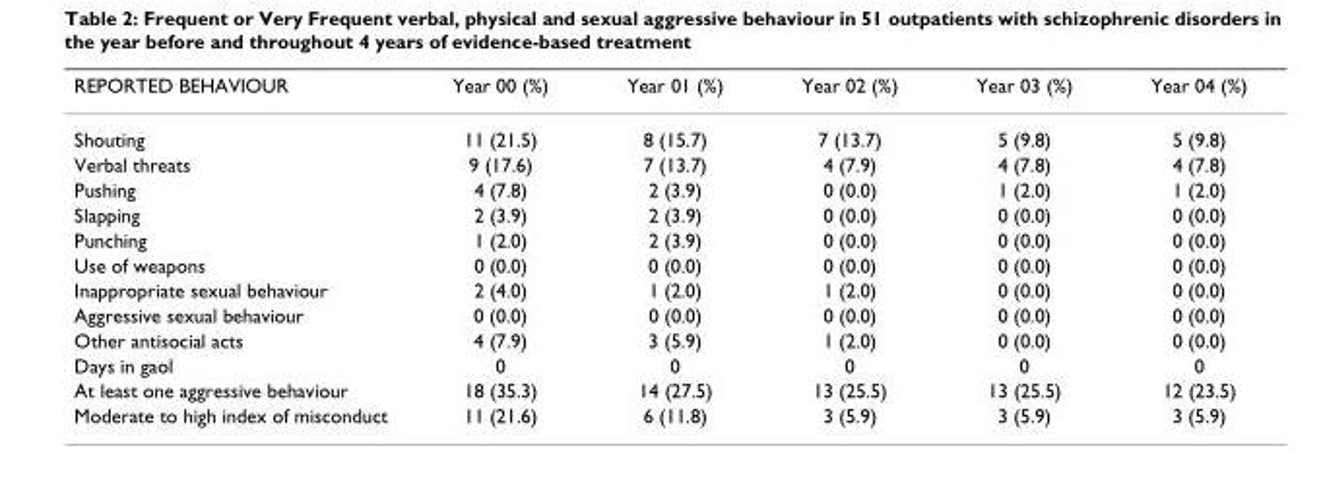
<table><thead><tr><td>REPORTED BEHAVIOUR</td><td>Year 00 (%)</td><td>Year 01 (%)</td><td>Year 02 (%)</td><td>Year 03 (%)</td><td>Year 04 (%)</td></tr></thead><tbody><tr><td>Shouting</td><td>11 (21.5)</td><td>8 (15.7)</td><td>7 (13.7)</td><td>5 (9.8)</td><td>5 (9.8)</td></tr><tr><td>Verbal threats</td><td>9 (17.6)</td><td>7 (13.7)</td><td>4 (7.9)</td><td>4 (7.8)</td><td>4 (7.8)</td></tr><tr><td>Pushing</td><td>4 (7.8)</td><td>2 (3.9)</td><td>0 (0.0)</td><td>1 (2.0)</td><td>1 (2.0)</td></tr><tr><td>Slapping</td><td>2 (3.9)</td><td>2 (3.9)</td><td>0 (0.0)</td><td>0 (0.0)</td><td>0 (0.0)</td></tr><tr><td>Punching</td><td>1 (2.0)</td><td>2 (3.9)</td><td>0 (0.0)</td><td>0 (0.0)</td><td>0 (0.0)</td></tr><tr><td>Use of weapons</td><td>0 (0.0)</td><td>0 (0.0)</td><td>0 (0.0)</td><td>0 (0.0)</td><td>0 (0.0)</td></tr><tr><td>Inappropriate sexual behaviour</td><td>2 (4.0)</td><td>1 (2.0)</td><td>1 (2.0)</td><td>0 (0.0)</td><td>0 (0.0)</td></tr><tr><td>Aggressive sexual behaviour</td><td>0 (0.0)</td><td>0 (0.0)</td><td>0 (0.0)</td><td>0 (0.0)</td><td>0 (0.0)</td></tr><tr><td>Other antisocial acts</td><td>4 (7.9)</td><td>3 (5.9)</td><td>1 (2.0)</td><td>0 (0.0)</td><td>0 (0.0)</td></tr><tr><td>Days in gaol</td><td>0</td><td>0</td><td>0</td><td>0</td><td>0</td></tr><tr><td>At least one aggressive behaviour</td><td>18 (35.3)</td><td>14 (27.5)</td><td>13 (25.5)</td><td>13 (25.5)</td><td>12 (23.5)</td></tr><tr><td>Moderate to high index of misconduct</td><td>11 (21.6)</td><td>6 (11.8)</td><td>3 (5.9)</td><td>3 (5.9)</td><td>3 (5.9)</td></tr></tbody></table>